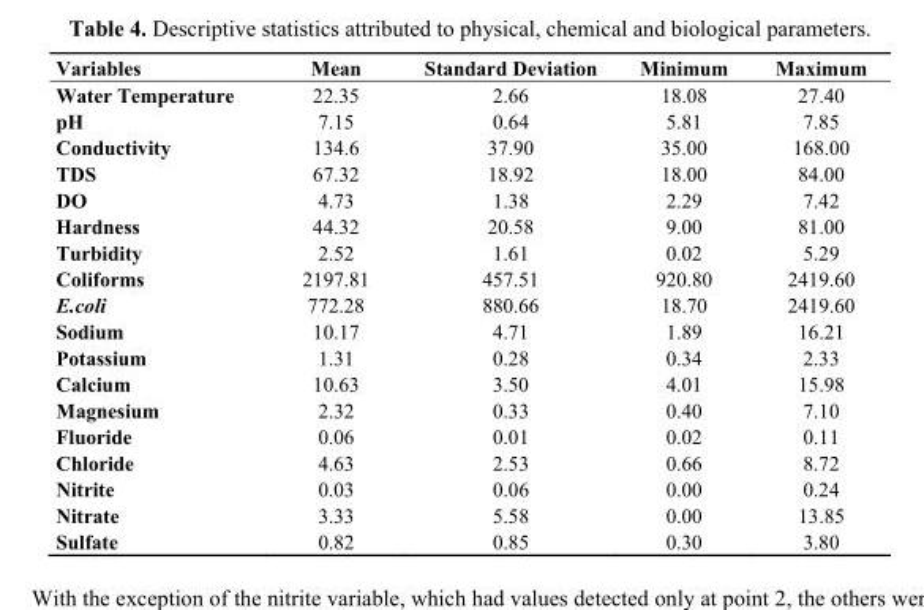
<table><thead><tr><td>Variables</td><td>Mean</td><td>Standard Deviation</td><td>Minimum</td><td>Maximum</td></tr></thead><tbody><tr><td>Water Temperature</td><td>22.35</td><td>2.66</td><td>18.08</td><td>27.40</td></tr><tr><td>pH</td><td>7.15</td><td>0.64</td><td>5.81</td><td>7.85</td></tr><tr><td>Conductivity</td><td>134.6</td><td>37.90</td><td>35.00</td><td>168.00</td></tr><tr><td>TDS</td><td>67.32</td><td>18.92</td><td>18.00</td><td>84.00</td></tr><tr><td>DO</td><td>4.73</td><td>1.38</td><td>2.29</td><td>7.42</td></tr><tr><td>Hardness</td><td>44.32</td><td>20.58</td><td>9.00</td><td>81.00</td></tr><tr><td>Turbidity</td><td>2.52</td><td>1.61</td><td>0.02</td><td>5.29</td></tr><tr><td>Coliforms</td><td>2197.81</td><td>457.51</td><td>920.80</td><td>2419.60</td></tr><tr><td>E.coli</td><td>772.28</td><td>880.66</td><td>18.70</td><td>2419.60</td></tr><tr><td>Sodium</td><td>10.17</td><td>4.71</td><td>1.89</td><td>16.21</td></tr><tr><td>Potassium</td><td>1.31</td><td>0.28</td><td>0.34</td><td>2.33</td></tr><tr><td>Calcium</td><td>10.63</td><td>3.50</td><td>4.01</td><td>15.98</td></tr><tr><td>Magnesium</td><td>2.32</td><td>0.33</td><td>0.40</td><td>7.10</td></tr><tr><td>Fluoride</td><td>0.06</td><td>0.01</td><td>0.02</td><td>0.11</td></tr><tr><td>Chloride</td><td>4.63</td><td>2.53</td><td>0.66</td><td>8.72</td></tr><tr><td>Nitrite</td><td>0.03</td><td>0.06</td><td>0.00</td><td>0.24</td></tr><tr><td>Nitrate</td><td>3.33</td><td>5.58</td><td>0.00</td><td>13.85</td></tr><tr><td>Sulfate</td><td>0.82</td><td>0.85</td><td>0.30</td><td>3.80</td></tr></tbody></table>